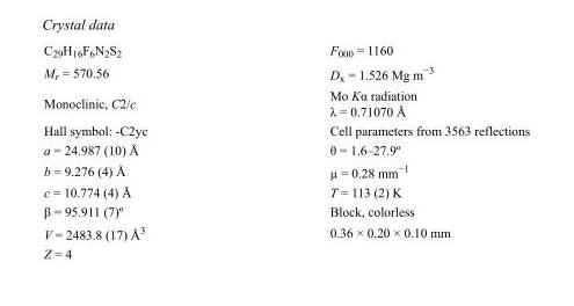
<table><tbody><tr><td>C<sub>29</sub>H<sub>16</sub>F<sub>6</sub>N<sub>2</sub>S<sub>2</sub></td><td>F<sub>000</sub> = 1160</td></tr><tr><td>M<sub>r</sub> = 570.56</td><td>D<sub>x</sub> = 1.526 Mg m<sup>−3</sup></td></tr><tr><td>Monoclinic, C2/c</td><td>Mo Kα radiation λ = 0.71070 Å</td></tr><tr><td>Hall symbol: -C2yc</td><td>Cell parameters from 3563 reflections</td></tr><tr><td>a = 24.987 (10) Å</td><td>θ = 1.6–27.9º</td></tr><tr><td>b = 9.276 (4) Å</td><td>µ = 0.28 mm<sup>−1</sup></td></tr><tr><td>c = 10.774 (4) Å</td><td>T = 113 (2) K</td></tr><tr><td>β = 95.911 (7)º</td><td>Block, colorless</td></tr><tr><td>V = 2483.8 (17) Å<sup>3</sup></td><td>0.36 × 0.20 × 0.10 mm</td></tr><tr><td>Z = 4</td><td></td></tr></tbody></table>